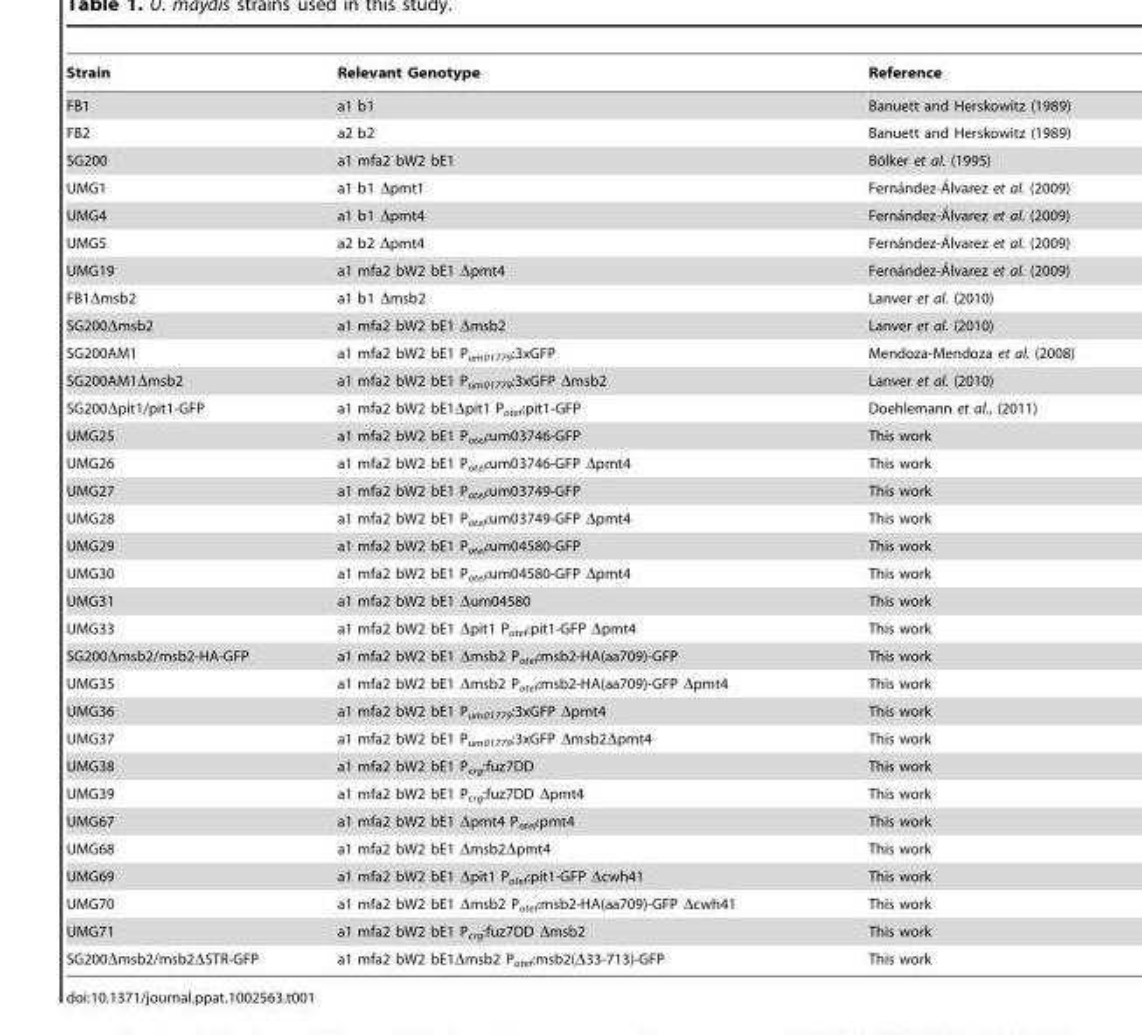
<table><thead><tr><td>Strain</td><td>Relevant Genotype</td><td>Reference</td></tr></thead><tbody><tr><td>FB1</td><td>a1 b1</td><td>Banuett and Herskowitz (1989)</td></tr><tr><td>FB2</td><td>a2 b2</td><td>Banuett and Herskowitz (1989)</td></tr><tr><td>SG200</td><td>a1 mfa2 bW2 bE1</td><td>Bo¨lker et al. (1995)</td></tr><tr><td>UMG1</td><td>a1 b1 Δpmt1</td><td>Ferna´ndez-A´ lvarez et al. (2009)</td></tr><tr><td>UMG4</td><td>a1 b1 Δpmt4</td><td>Ferna´ndez-A´ lvarez et al. (2009)</td></tr><tr><td>UMG5</td><td>a2 b2 Δpmt4</td><td>Ferna´ndez-A´ lvarez et al. (2009)</td></tr><tr><td>UMG19</td><td>a1 mfa2 bW2 bE1 Δpmt4</td><td>Ferna´ndez-A´ lvarez et al. (2009)</td></tr><tr><td>FB1Δmsb2</td><td>a1 b1 Δmsb2</td><td>Lanver et al. (2010)</td></tr><tr><td>SG200Δmsb2</td><td>a1 mfa2 bW2 bE1 Δmsb2</td><td>Lanver et al. (2010)</td></tr><tr><td>SG200AM1</td><td>a1 mfa2 bW2 bE1 P<sub>um01779</sub>:3xGFP</td><td>Mendoza-Mendoza et al. (2008)</td></tr><tr><td>SG200AM1Δmsb2</td><td>a1 mfa2 bW2 bE1 P<sub>um01779</sub>:3xGFP Δmsb2</td><td>Lanver et al. (2010)</td></tr><tr><td>SG200Δpit1/pit1-GFP</td><td>a1 mfa2 bW2 bE1Δpit1 P<sub>otef</sub>:pit1-GFP</td><td>Doehlemann et al., (2011)</td></tr><tr><td>UMG25</td><td>a1 mfa2 bW2 bE1 P<sub>otef</sub>:um03746-GFP</td><td>This work</td></tr><tr><td>UMG26</td><td>a1 mfa2 bW2 bE1 P<sub>otef</sub>:um03746-GFP Δpmt4</td><td>This work</td></tr><tr><td>UMG27</td><td>a1 mfa2 bW2 bE1 P<sub>otef</sub>:um03749-GFP</td><td>This work</td></tr><tr><td>UMG28</td><td>a1 mfa2 bW2 bE1 P<sub>otef</sub>:um03749-GFP Δpmt4</td><td>This work</td></tr><tr><td>UMG29</td><td>a1 mfa2 bW2 bE1 P<sub>otef</sub>:um04580-GFP</td><td>This work</td></tr><tr><td>UMG30</td><td>a1 mfa2 bW2 bE1 P<sub>otef</sub>:um04580-GFP Δpmt4</td><td>This work</td></tr><tr><td>UMG31</td><td>a1 mfa2 bW2 bE1 Δum04580</td><td>This work</td></tr><tr><td>UMG33</td><td>a1 mfa2 bW2 bE1 Δpit1 P<sub>otef</sub>:pit1-GFP Δpmt4</td><td>This work</td></tr><tr><td>SG200Δmsb2/msb2-HA-GFP</td><td>a1 mfa2 bW2 bE1 Δmsb2 P<sub>otef</sub>:msb2-HA(aa709)-GFP</td><td>This work</td></tr><tr><td>UMG35</td><td>a1 mfa2 bW2 bE1 Δmsb2 P<sub>otef</sub>:msb2-HA(aa709)-GFP Δpmt4</td><td>This work</td></tr><tr><td>UMG36</td><td>a1 mfa2 bW2 bE1 P<sub>um01779</sub>:3xGFP Δpmt4</td><td>This work</td></tr><tr><td>UMG37</td><td>a1 mfa2 bW2 bE1 P<sub>um01779</sub>:3xGFP Δmsb2Δpmt4</td><td>This work</td></tr><tr><td>UMG38</td><td>a1 mfa2 bW2 bE1 P<sub>crg</sub>:fuz7DD</td><td>This work</td></tr><tr><td>UMG39</td><td>a1 mfa2 bW2 bE1 P<sub>crg</sub>:fuz7DD Δpmt4</td><td>This work</td></tr><tr><td>UMG67</td><td>a1 mfa2 bW2 bE1 Δpmt4 P<sub>otef</sub>:pmt4</td><td>This work</td></tr><tr><td>UMG68</td><td>a1 mfa2 bW2 bE1 Δmsb2Δpmt4</td><td>This work</td></tr><tr><td>UMG69</td><td>a1 mfa2 bW2 bE1 Δpit1 P<sub>otef</sub>:pit1-GFP Δcwh41</td><td>This work</td></tr><tr><td>UMG70</td><td>a1 mfa2 bW2 bE1 Δmsb2 P<sub>otef</sub>:msb2-HA(aa709)-GFP Δcwh41</td><td>This work</td></tr><tr><td>UMG71</td><td>a1 mfa2 bW2 bE1 P<sub>crg</sub>:fuz7DD Δmsb2</td><td>This work</td></tr><tr><td>SG200Δmsb2/msb2ΔSTR-GFP</td><td>a1 mfa2 bW2 bE1Δmsb2 P<sub>otef</sub>:msb2(Δ33-713)-GFP</td><td>This work</td></tr></tbody></table>